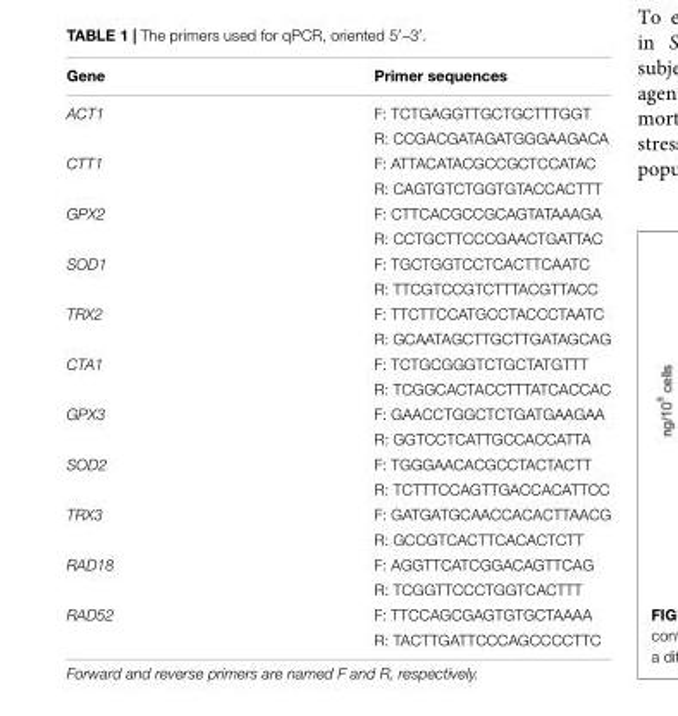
<table><thead><tr><td>Gene</td><td>Primer sequences</td></tr></thead><tbody><tr><td rowspan="2">ACT1</td><td>F: TCTGAGGTTGCTGCTTTGGT</td></tr><tr><td>R: CCGACGATAGATGGGAAGACA</td></tr><tr><td rowspan="2">CTT1</td><td>F: ATTACATACGCCGCTCCATAC</td></tr><tr><td>R: CAGTGTCTGGTGTACCACTTT</td></tr><tr><td rowspan="2">GPX2</td><td>F: CTTCACGCCGCAGTATAAAGA</td></tr><tr><td>R: CCTGCTTCCCGAACTGATTAC</td></tr><tr><td rowspan="2">SOD1</td><td>F: TGCTGGTCCTCACTTCAATC</td></tr><tr><td>R: TTCGTCCGTCTTTACGTTACC</td></tr><tr><td rowspan="2">TRX2</td><td>F: TTCTTCCATGCCTACCCTAATC</td></tr><tr><td>R: GCAATAGCTTGCTTGATAGCAG</td></tr><tr><td rowspan="2">CTA1</td><td>F: TCTGCGGGTCTGCTATGTTT</td></tr><tr><td>R: TCGGCACTACCTTTATCACCAC</td></tr><tr><td rowspan="2">GPX3</td><td>F: GAACCTGGCTCTGATGAAGAA</td></tr><tr><td>R: GGTCCTCATTGCCACCATTA</td></tr><tr><td rowspan="2">SOD2</td><td>F: TGGGAACACGCCTACTACTT</td></tr><tr><td>R: TCTTTCCAGTTGACCACATTCC</td></tr><tr><td rowspan="2">TRX3</td><td>F: GATGATGCAACCACACTTAACG</td></tr><tr><td>R: GCCGTCACTTCACACTCTT</td></tr><tr><td rowspan="2">RAD18</td><td>F: AGGTTCATCGGACAGTTCAG</td></tr><tr><td>R: TCGGTTCCCTGGTCACTTT</td></tr><tr><td rowspan="2">RAD52</td><td>F: TTCCAGCGAGTGTGCTAAAA</td></tr><tr><td>R: TACTTGATTCCCAGCCCCTTC</td></tr></tbody></table>